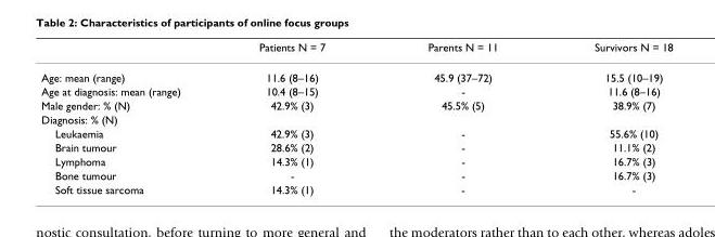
<table><thead><tr><td></td><td>Patients N = 7</td><td>Parents N = 11</td><td>Survivors N = 18</td></tr></thead><tbody><tr><td>Age: mean (range)</td><td>11.6 (8–16)</td><td>45.9 (37–72)</td><td>15.5 (10–19)</td></tr><tr><td>Age at diagnosis: mean (range)</td><td>10.4 (8–15)</td><td>-</td><td>11.6 (8–16)</td></tr><tr><td>Male gender: % (N)</td><td>42.9% (3)</td><td>45.5% (5)</td><td>38.9% (7)</td></tr><tr><td colspan="4">Diagnosis: % (N)</td></tr><tr><td>Leukaemia</td><td>42.9% (3)</td><td>-</td><td>55.6% (10)</td></tr><tr><td>Brain tumour</td><td>28.6% (2)</td><td>-</td><td>11.1% (2)</td></tr><tr><td>Lymphoma</td><td>14.3% (1)</td><td>-</td><td>16.7% (3)</td></tr><tr><td>Bone tumour</td><td>-</td><td>-</td><td>16.7% (3)</td></tr><tr><td>Soft tissue sarcoma</td><td>14.3% (1)</td><td>-</td><td>-</td></tr></tbody></table>